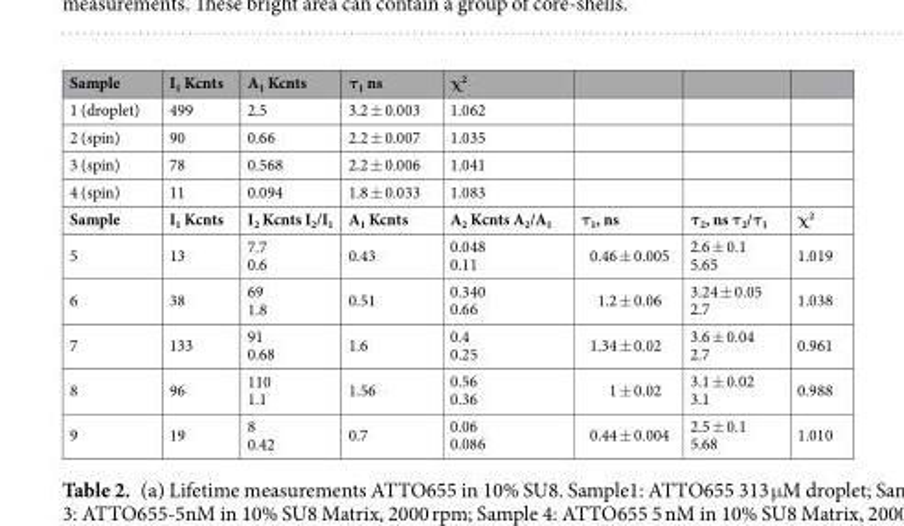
<table><thead><tr><td>Sample</td><td>I<sub>1</sub> Kcnts</td><td>A<sub>1</sub> Kcnts</td><td>τ<sub>1</sub> ns</td><td>χ<sup>2</sup></td><td></td><td></td><td></td></tr></thead><tbody><tr><td>1 (droplet)</td><td>499</td><td>2.5</td><td>3.2 ± 0.003</td><td>1.062</td><td></td><td></td><td></td></tr><tr><td>2 (spin)</td><td>90</td><td>0.66</td><td>2.2 ± 0.007</td><td>1.035</td><td></td><td></td><td></td></tr><tr><td>3 (spin)</td><td>78</td><td>0.568</td><td>2.2 ± 0.006</td><td>1.041</td><td></td><td></td><td></td></tr><tr><td>4 (spin)</td><td>11</td><td>0.094</td><td>1.8 ± 0.033</td><td>1.083</td><td></td><td></td><td></td></tr><tr><td>Sample</td><td>I<sub>1</sub> Kcnts</td><td>I<sub>2</sub> Kcnts I<sub>2</sub>/I<sub>1</sub></td><td>A<sub>1</sub> Kcnts</td><td>A<sub>2</sub> Kcnts A<sub>2</sub>/A<sub>1</sub></td><td>τ<sub>1</sub>, ns</td><td>τ<sub>2</sub>, ns τ<sub>2</sub>/τ<sub>1</sub></td><td>χ<sup>2</sup></td></tr><tr><td>5</td><td>13</td><td>7.7 0.6</td><td>0.43</td><td>0.048 0.11</td><td>0.46 ± 0.005</td><td>2.6 ± 0.1 5.65</td><td>1.019</td></tr><tr><td>6</td><td>38</td><td>69 1.8</td><td>0.51</td><td>0.340 0.66</td><td>1.2 ± 0.06</td><td>3.24 ± 0.05 2.7</td><td>1.038</td></tr><tr><td>7</td><td>133</td><td>91 0.68</td><td>1.6</td><td>0.4 0.25</td><td>1.34 ± 0.02</td><td>3.6 ± 0.04 2.7</td><td>0.961</td></tr><tr><td>8</td><td>96</td><td>110 1.1</td><td>1.56</td><td>0.56 0.36</td><td>1 ± 0.02</td><td>3.1 ± 0.02 3.1</td><td>0.988</td></tr><tr><td>9</td><td>19</td><td>8 0.42</td><td>0.7</td><td>0.06 0.086</td><td>0.44 ± 0.004</td><td>2.5 ± 0.1 5.68</td><td>1.010</td></tr></tbody></table>